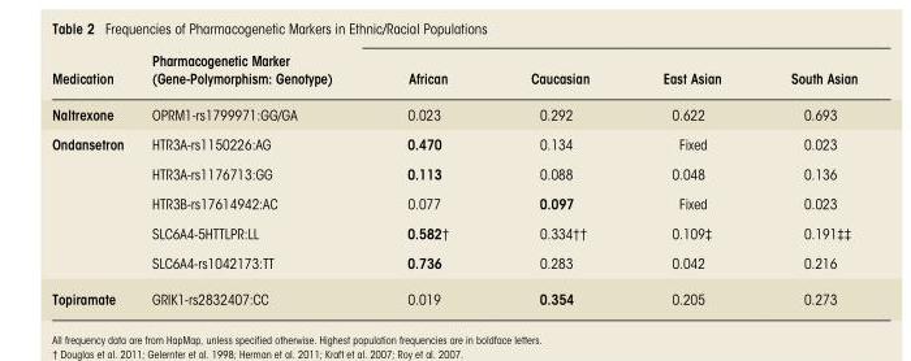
<table><thead><tr><td>Medication</td><td>Pharmacogenetic Marker (Gene-Polymorphism: Genotype)</td><td>African</td><td>Caucasian</td><td>East Asian</td><td>South Asian</td></tr></thead><tbody><tr><td>Naltrexone</td><td>OPRM1-rs1799971:GG/GA</td><td>0.023</td><td>0.292</td><td>0.622</td><td>0.693</td></tr><tr><td rowspan="5">Ondansetron</td><td>HTR3A-rs1150226:AG</td><td>0.470</td><td>0.134</td><td>Fixed</td><td>0.023</td></tr><tr><td>HTR3A-rs1176713:GG</td><td>0.113</td><td>0.088</td><td>0.048</td><td>0.136</td></tr><tr><td>HTR3B-rs17614942:AC</td><td>0.077</td><td>0.097</td><td>Fixed</td><td>0.023</td></tr><tr><td>SLC6A4-5HTTLPR:LL</td><td>0.582†</td><td>0.334††</td><td>0.109‡</td><td>0.191‡‡</td></tr><tr><td>SLC6A4-rs1042173:TT</td><td>0.736</td><td>0.283</td><td>0.042</td><td>0.216</td></tr><tr><td>Topiramate</td><td>GRIK1-rs2832407:CC</td><td>0.019</td><td>0.354</td><td>0.205</td><td>0.273</td></tr></tbody></table>